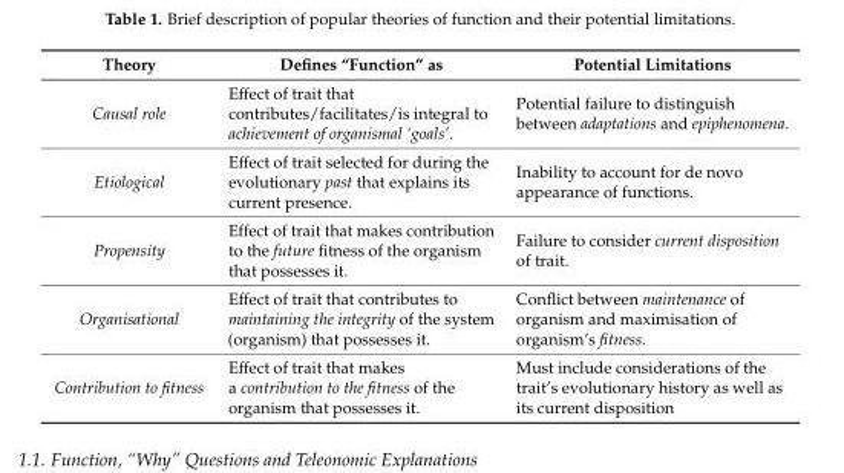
<table><thead><tr><td>Theory</td><td>Defines “Function” as</td><td>Potential Limitations</td></tr></thead><tbody><tr><td>Causal role</td><td>Effect of trait that contributes/facilitates/is integral to achievement of organismal ‘goals’.</td><td>Potential failure to distinguish between adaptations and epiphenomena.</td></tr><tr><td>Etiological</td><td>Effect of trait selected for during the evolutionary past that explains its current presence.</td><td>Inability to account for de novo appearance of functions.</td></tr><tr><td>Propensity</td><td>Effect of trait that makes contribution to the future fitness of the organism that possesses it.</td><td>Failure to consider current disposition of trait.</td></tr><tr><td>Organisational</td><td>Effect of trait that contributes to maintaining the integrity of the system (organism) that possesses it.</td><td>Conflict between maintenance of organism and maximisation of organism’s fitness.</td></tr><tr><td>Contribution to fitness</td><td>Effect of trait that makes a contribution to the fitness of the organism that possesses it.</td><td>Must include considerations of the trait’s evolutionary history as well as its current disposition</td></tr></tbody></table>